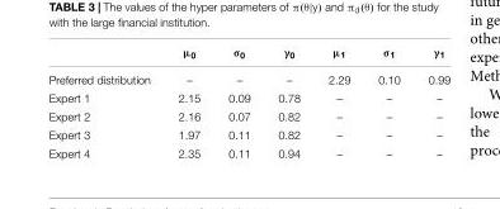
<table><thead><tr><td></td><td>µ<sub>0</sub></td><td>σ<sub>0</sub></td><td>γ<sub>0</sub></td><td>µ<sub>1</sub></td><td>σ<sub>1</sub></td><td>γ<sub>1</sub></td></tr></thead><tbody><tr><td>Preferred distribution</td><td>–</td><td>–</td><td>–</td><td>2.29</td><td>0.10</td><td>0.99</td></tr><tr><td>Expert 1</td><td>2.15</td><td>0.09</td><td>0.78</td><td>–</td><td>–</td><td>–</td></tr><tr><td>Expert 2</td><td>2.16</td><td>0.07</td><td>0.82</td><td>–</td><td>–</td><td>–</td></tr><tr><td>Expert 3</td><td>1.97</td><td>0.11</td><td>0.82</td><td>–</td><td>–</td><td>–</td></tr><tr><td>Expert 4</td><td>2.35</td><td>0.11</td><td>0.94</td><td>–</td><td>–</td><td>–</td></tr></tbody></table>